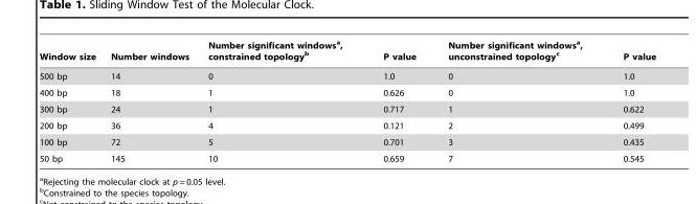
<table><thead><tr><td>Window size</td><td>Number windows</td><td>Number significant windows<sup>a</sup>, constrained topology<sup>b</sup></td><td>P value</td><td>Number significant windows<sup>a</sup>, unconstrained topology<sup>c</sup></td><td>P value</td></tr></thead><tbody><tr><td>500 bp</td><td>14</td><td>0</td><td>1.0</td><td>0</td><td>1.0</td></tr><tr><td>400 bp</td><td>18</td><td>1</td><td>0.626</td><td>0</td><td>1.0</td></tr><tr><td>300 bp</td><td>24</td><td>1</td><td>0.717</td><td>1</td><td>0.622</td></tr><tr><td>200 bp</td><td>36</td><td>4</td><td>0.121</td><td>2</td><td>0.499</td></tr><tr><td>100 bp</td><td>72</td><td>5</td><td>0.701</td><td>3</td><td>0.435</td></tr><tr><td>50 bp</td><td>145</td><td>10</td><td>0.659</td><td>7</td><td>0.545</td></tr></tbody></table>